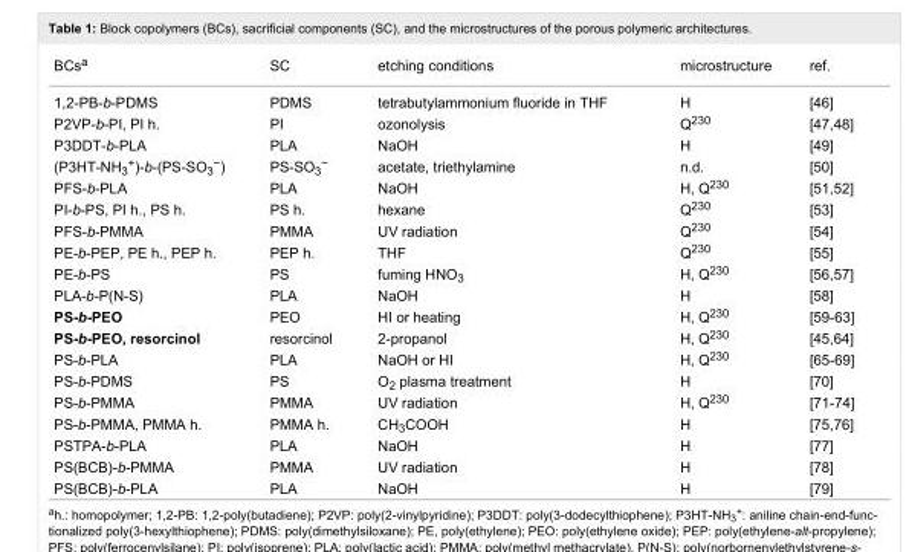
<table><tbody><tr><td>BCs<sup>a</sup></td><td>SC</td><td>etching conditions</td><td>microstructure</td><td>ref.</td></tr><tr><td>1,2-PB-b-PDMS</td><td>PDMS</td><td>tetrabutylammonium fluoride in THF</td><td>H</td><td>[46]</td></tr><tr><td>P2VP-b-PI, PI h.</td><td>PI</td><td>ozonolysis</td><td>Q<sup>230</sup></td><td>[47–48]</td></tr><tr><td>P3DDT-b-PLA</td><td>PLA</td><td>NaOH</td><td>H</td><td>[49]</td></tr><tr><td>(P3HT-NH<sub>3</sub><sup>+</sup>)-b-(PS-SO<sub>3</sub><sup>−</sup>)</td><td>PS-SO<sub>3</sub><sup>−</sup></td><td>acetate, triethylamine</td><td>n.d.</td><td>[50]</td></tr><tr><td>PFS-b-PLA</td><td>PLA</td><td>NaOH</td><td>H, Q<sup>230</sup></td><td>[51–52]</td></tr><tr><td>PI-b-PS, PI h., PS h.</td><td>PS h.</td><td>hexane</td><td>Q<sup>230</sup></td><td>[53]</td></tr><tr><td>PFS-b-PMMA</td><td>PMMA</td><td>UV radiation</td><td>Q<sup>230</sup></td><td>[54]</td></tr><tr><td>PE-b-PEP, PE h., PEP h.</td><td>PEP h.</td><td>THF</td><td>Q<sup>230</sup></td><td>[55]</td></tr><tr><td>PE-b-PS</td><td>PS</td><td>fuming HNO<sub>3</sub></td><td>H, Q<sup>230</sup></td><td>[56–57]</td></tr><tr><td>PLA-b-P(N-S)</td><td>PLA</td><td>NaOH</td><td>H</td><td>[58]</td></tr><tr><td>PS-b-PEO</td><td>PEO</td><td>HI or heating</td><td>H, Q<sup>230</sup></td><td>[59-63]</td></tr><tr><td>PS-b-PEO, resorcinol</td><td>resorcinol</td><td>2-propanol</td><td>H, Q<sup>230</sup></td><td>[45,64]</td></tr><tr><td>PS-b-PLA</td><td>PLA</td><td>NaOH or HI</td><td>H, Q<sup>230</sup></td><td>[65-69]</td></tr><tr><td>PS-b-PDMS</td><td>PS</td><td>O<sub>2</sub> plasma treatment</td><td>H</td><td>[70]</td></tr><tr><td>PS-b-PMMA</td><td>PMMA</td><td>UV radiation</td><td>H, Q<sup>230</sup></td><td>[71-74]</td></tr><tr><td>PS-b-PMMA, PMMA h.</td><td>PMMA h.</td><td>CH<sub>3</sub>COOH</td><td>H</td><td>[75–76]</td></tr><tr><td>PSTPA-b-PLA</td><td>PLA</td><td>NaOH</td><td>H</td><td>[77]</td></tr><tr><td>PS(BCB)-b-PMMA</td><td>PMMA</td><td>UV radiation</td><td>H</td><td>[78]</td></tr><tr><td>PS(BCB)-b-PLA</td><td>PLA</td><td>NaOH</td><td>H</td><td>[79]</td></tr></tbody></table>